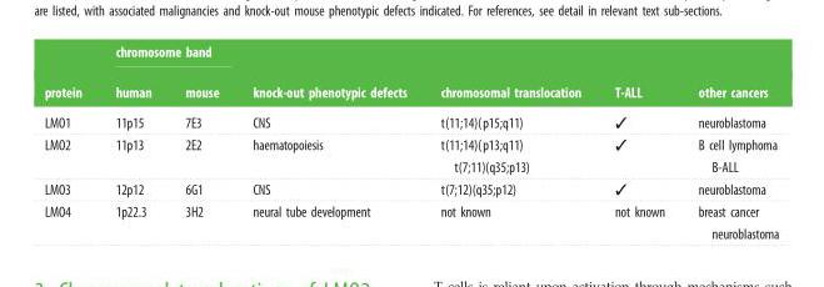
<table><thead><tr><td rowspan="2">protein</td><td colspan="2">chromosome band</td><td rowspan="2">knock-out phenotypic defects</td><td rowspan="2">chromosomal translocation</td><td rowspan="2">T-ALL</td><td rowspan="2">other cancers</td></tr><tr><td>human</td><td>mouse</td></tr></thead><tbody><tr><td>LMO1</td><td>11p15</td><td>7E3</td><td>CNS</td><td>t(11;14)(p15;q11)</td><td>✓</td><td>neuroblastoma</td></tr><tr><td>LMO2</td><td>11p13</td><td>2E2</td><td>haematopoiesis</td><td>t(11;14)(p13;q11) t(7;11)(q35;p13)</td><td>✓</td><td>B cell lymphoma B-ALL</td></tr><tr><td>LMO3</td><td>12p12</td><td>6G1</td><td>CNS</td><td>t(7;12)(q35;p12)</td><td>✓</td><td>neuroblastoma</td></tr><tr><td>LMO4</td><td>1p22.3</td><td>3H2</td><td>neural tube development</td><td>not known</td><td>not known</td><td>breast cancer neuroblastoma</td></tr></tbody></table>